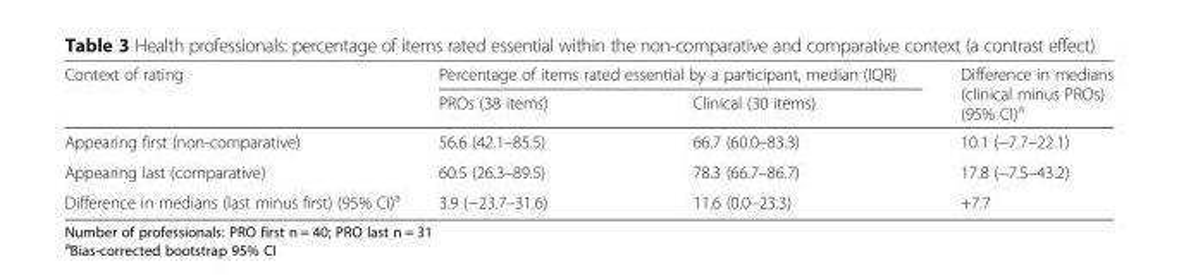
<table><thead><tr><td rowspan="2">Context of rating</td><td colspan="2">Percentage of items rated essential by a participant, median (IQR)</td><td rowspan="2">Difference in medians (clinical minus PROs) (95% CI)<sup>a</sup></td></tr><tr><td>PROs (38 items)</td><td>Clinical (30 items)</td></tr></thead><tbody><tr><td>Appearing first (non-comparative)</td><td>56.6 (42.1–85.5)</td><td>66.7 (60.0–83.3)</td><td>10.1 (−7.7–22.1)</td></tr><tr><td>Appearing last (comparative)</td><td>60.5 (26.3–89.5)</td><td>78.3 (66.7–86.7)</td><td>17.8 (−7.5–43.2)</td></tr><tr><td>Difference in medians (last minus first) (95% CI)<sup>a</sup></td><td>3.9 (−23.7–31.6)</td><td>11.6 (0.0–23.3)</td><td>+7.7</td></tr></tbody></table>